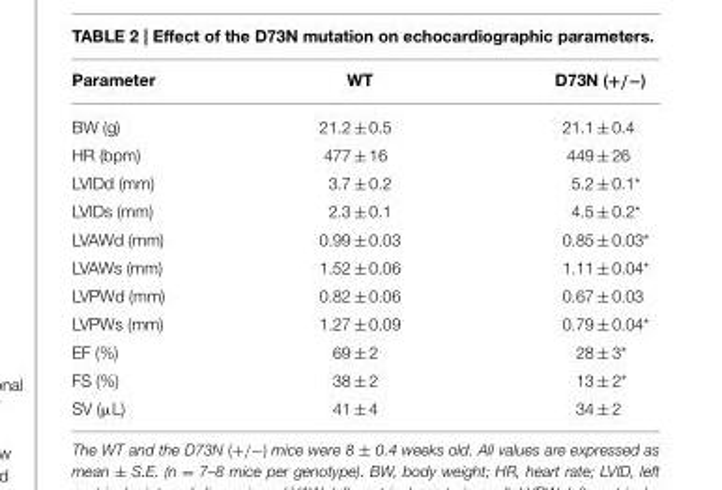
<table><thead><tr><td>Parameter</td><td>WT</td><td>D73N (+/−)</td></tr></thead><tbody><tr><td>BW (g)</td><td>21.2 ± 0.5</td><td>21.1 ± 0.4</td></tr><tr><td>HR (bpm)</td><td>477 ± 16</td><td>449 ± 26</td></tr><tr><td>LVIDd (mm)</td><td>3.7 ± 0.2</td><td>5.2 ± 0.1*</td></tr><tr><td>LVIDs (mm)</td><td>2.3 ± 0.1</td><td>4.5 ± 0.2*</td></tr><tr><td>LVAWd (mm)</td><td>0.99 ± 0.03</td><td>0.85 ± 0.03*</td></tr><tr><td>LVAWs (mm)</td><td>1.52 ± 0.06</td><td>1.11 ± 0.04*</td></tr><tr><td>LVPWd (mm)</td><td>0.82 ± 0.06</td><td>0.67 ± 0.03</td></tr><tr><td>LVPWs (mm)</td><td>1.27 ± 0.09</td><td>0.79 ± 0.04*</td></tr><tr><td>EF (%)</td><td>69 ± 2</td><td>28 ± 3*</td></tr><tr><td>FS (%)</td><td>38 ± 2</td><td>13 ± 2*</td></tr><tr><td>SV (µL)</td><td>41 ± 4</td><td>34 ± 2</td></tr></tbody></table>